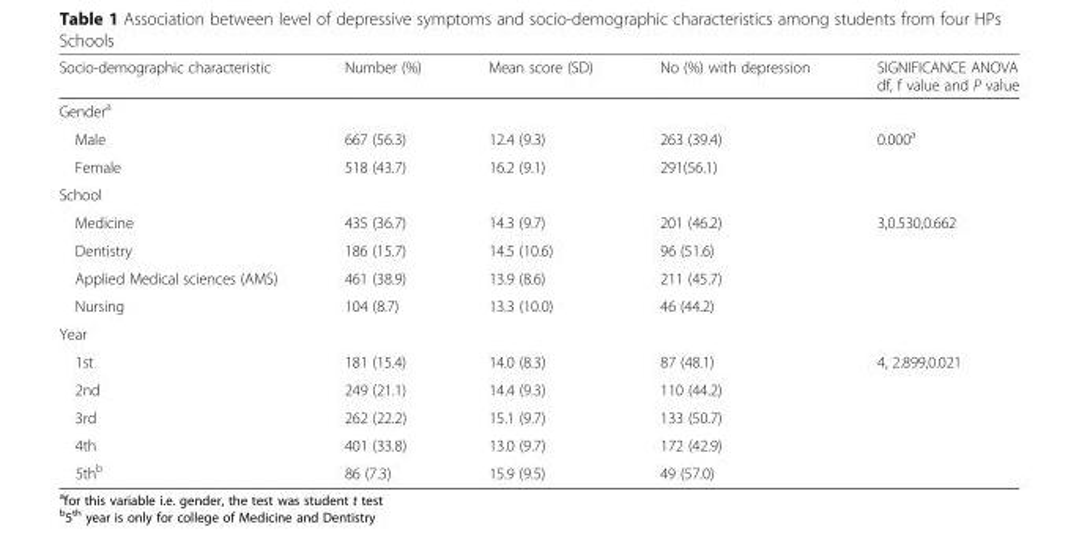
<table><thead><tr><td>Socio-demographic characteristic</td><td>Number (%)</td><td>Mean score (SD)</td><td>No (%) with depression</td><td>SIGNIFICANCE ANOVA df, f value and P value</td></tr></thead><tbody><tr><td colspan="5">Gender<sup>a</sup></td></tr><tr><td>Male</td><td>667 (56.3)</td><td>12.4 (9.3)</td><td>263 (39.4)</td><td rowspan="2">0.000<sup>a</sup></td></tr><tr><td>Female</td><td>518 (43.7)</td><td>16.2 (9.1)</td><td>291(56.1)</td></tr><tr><td colspan="5">School</td></tr><tr><td>Medicine</td><td>435 (36.7)</td><td>14.3 (9.7)</td><td>201 (46.2)</td><td rowspan="4">3,0.530,0.662</td></tr><tr><td>Dentistry</td><td>186 (15.7)</td><td>14.5 (10.6)</td><td>96 (51.6)</td></tr><tr><td>Applied Medical sciences (AMS)</td><td>461 (38.9)</td><td>13.9 (8.6)</td><td>211 (45.7)</td></tr><tr><td>Nursing</td><td>104 (8.7)</td><td>13.3 (10.0)</td><td>46 (44.2)</td></tr><tr><td colspan="5">Year</td></tr><tr><td>1st</td><td>181 (15.4)</td><td>14.0 (8.3)</td><td>87 (48.1)</td><td rowspan="5">4, 2.899,0.021</td></tr><tr><td>2nd</td><td>249 (21.1)</td><td>14.4 (9.3)</td><td>110 (44.2)</td></tr><tr><td>3rd</td><td>262 (22.2)</td><td>15.1 (9.7)</td><td>133 (50.7)</td></tr><tr><td>4th</td><td>401 (33.8)</td><td>13.0 (9.7)</td><td>172 (42.9)</td></tr><tr><td>5th<sup>b</sup></td><td>86 (7.3)</td><td>15.9 (9.5)</td><td>49 (57.0)</td></tr></tbody></table>